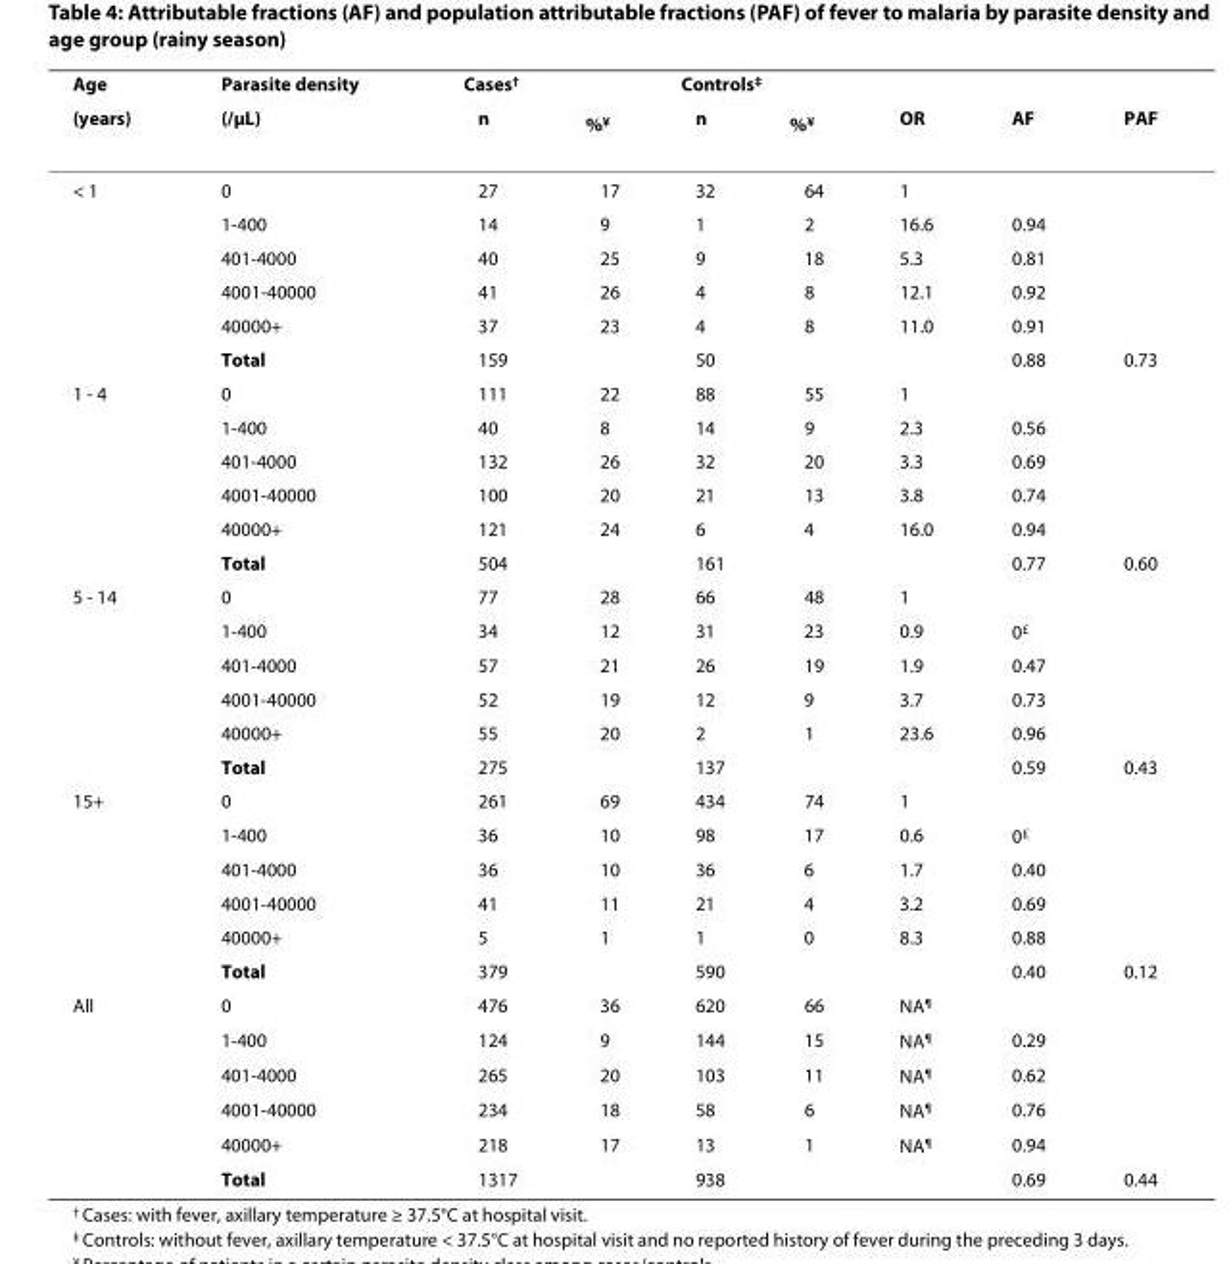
<table><thead><tr><td rowspan="2">Age (years)</td><td rowspan="2">Parasite density (/μL)</td><td colspan="2">Cases<sup>†</sup></td><td colspan="2">Controls<sup>‡</sup></td><td rowspan="2">OR</td><td rowspan="2">AF</td><td rowspan="2">PAF</td></tr><tr><td>n</td><td>%<sup>¥</sup></td><td>n</td><td>%<sup>¥</sup></td></tr></thead><tbody><tr><td rowspan="6">&lt; 1</td><td>0</td><td>27</td><td>17</td><td>32</td><td>64</td><td>1</td><td></td><td></td></tr><tr><td>1-400</td><td>14</td><td>9</td><td>1</td><td>2</td><td>16.6</td><td>0.94</td><td></td></tr><tr><td>401-4000</td><td>40</td><td>25</td><td>9</td><td>18</td><td>5.3</td><td>0.81</td><td></td></tr><tr><td>4001-40000</td><td>41</td><td>26</td><td>4</td><td>8</td><td>12.1</td><td>0.92</td><td></td></tr><tr><td>40000+</td><td>37</td><td>23</td><td>4</td><td>8</td><td>11.0</td><td>0.91</td><td></td></tr><tr><td>Total</td><td>159</td><td></td><td>50</td><td></td><td></td><td>0.88</td><td>0.73</td></tr><tr><td rowspan="6">1 - 4</td><td>0</td><td>111</td><td>22</td><td>88</td><td>55</td><td>1</td><td></td><td></td></tr><tr><td>1-400</td><td>40</td><td>8</td><td>14</td><td>9</td><td>2.3</td><td>0.56</td><td></td></tr><tr><td>401-4000</td><td>132</td><td>26</td><td>32</td><td>20</td><td>3.3</td><td>0.69</td><td></td></tr><tr><td>4001-40000</td><td>100</td><td>20</td><td>21</td><td>13</td><td>3.8</td><td>0.74</td><td></td></tr><tr><td>40000+</td><td>121</td><td>24</td><td>6</td><td>4</td><td>16.0</td><td>0.94</td><td></td></tr><tr><td>Total</td><td>504</td><td></td><td>161</td><td></td><td></td><td>0.77</td><td>0.60</td></tr><tr><td rowspan="6">5 - 14</td><td>0</td><td>77</td><td>28</td><td>66</td><td>48</td><td>1</td><td></td><td></td></tr><tr><td>1-400</td><td>34</td><td>12</td><td>31</td><td>23</td><td>0.9</td><td>0<sup>£</sup></td><td></td></tr><tr><td>401-4000</td><td>57</td><td>21</td><td>26</td><td>19</td><td>1.9</td><td>0.47</td><td></td></tr><tr><td>4001-40000</td><td>52</td><td>19</td><td>12</td><td>9</td><td>3.7</td><td>0.73</td><td></td></tr><tr><td>40000+</td><td>55</td><td>20</td><td>2</td><td>1</td><td>23.6</td><td>0.96</td><td></td></tr><tr><td>Total</td><td>275</td><td></td><td>137</td><td></td><td></td><td>0.59</td><td>0.43</td></tr><tr><td rowspan="6">15+</td><td>0</td><td>261</td><td>69</td><td>434</td><td>74</td><td>1</td><td></td><td></td></tr><tr><td>1-400</td><td>36</td><td>10</td><td>98</td><td>17</td><td>0.6</td><td>0<sup>£</sup></td><td></td></tr><tr><td>401-4000</td><td>36</td><td>10</td><td>36</td><td>6</td><td>1.7</td><td>0.40</td><td></td></tr><tr><td>4001-40000</td><td>41</td><td>11</td><td>21</td><td>4</td><td>3.2</td><td>0.69</td><td></td></tr><tr><td>40000+</td><td>5</td><td>1</td><td>1</td><td>0</td><td>8.3</td><td>0.88</td><td></td></tr><tr><td>Total</td><td>379</td><td></td><td>590</td><td></td><td></td><td>0.40</td><td>0.12</td></tr><tr><td rowspan="6">All</td><td>0</td><td>476</td><td>36</td><td>620</td><td>66</td><td>NA<sup>¶</sup></td><td></td><td></td></tr><tr><td>1-400</td><td>124</td><td>9</td><td>144</td><td>15</td><td>NA<sup>¶</sup></td><td>0.29</td><td></td></tr><tr><td>401-4000</td><td>265</td><td>20</td><td>103</td><td>11</td><td>NA<sup>¶</sup></td><td>0.62</td><td></td></tr><tr><td>4001-40000</td><td>234</td><td>18</td><td>58</td><td>6</td><td>NA<sup>¶</sup></td><td>0.76</td><td></td></tr><tr><td>40000+</td><td>218</td><td>17</td><td>13</td><td>1</td><td>NA<sup>¶</sup></td><td>0.94</td><td></td></tr><tr><td>Total</td><td>1317</td><td></td><td>938</td><td></td><td></td><td>0.69</td><td>0.44</td></tr></tbody></table>